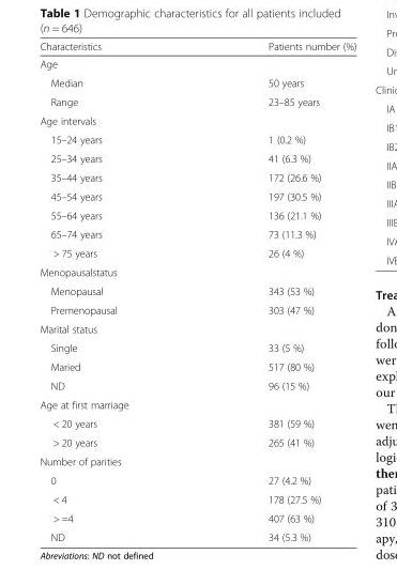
<table><thead><tr><td>Characteristics</td><td>Patients number (%)</td></tr></thead><tbody><tr><td colspan="2">Age</td></tr><tr><td>Median</td><td>50 years</td></tr><tr><td>Range</td><td>23–85 years</td></tr><tr><td colspan="2">Age intervals</td></tr><tr><td>15–24 years</td><td>1 (0.2 %)</td></tr><tr><td>25–34 years</td><td>41 (6.3 %)</td></tr><tr><td>35–44 years</td><td>172 (26.6 %)</td></tr><tr><td>45–54 years</td><td>197 (30.5 %)</td></tr><tr><td>55–64 years</td><td>136 (21.1 %)</td></tr><tr><td>65–74 years</td><td>73 (11.3 %)</td></tr><tr><td>&gt; 75 years</td><td>26 (4 %)</td></tr><tr><td colspan="2">Menopausalstatus</td></tr><tr><td>Menopausal</td><td>343 (53 %)</td></tr><tr><td>Premenopausal</td><td>303 (47 %)</td></tr><tr><td colspan="2">Marital status</td></tr><tr><td>Single</td><td>33 (5 %)</td></tr><tr><td>Maried</td><td>517 (80 %)</td></tr><tr><td>ND</td><td>96 (15 %)</td></tr><tr><td colspan="2">Age at first marriage</td></tr><tr><td>&lt; 20 years</td><td>381 (59 %)</td></tr><tr><td>&gt; 20 years</td><td>265 (41 %)</td></tr><tr><td colspan="2">Number of parities</td></tr><tr><td>0</td><td>27 (4.2 %)</td></tr><tr><td>&lt; 4</td><td>178 (27.5 %)</td></tr><tr><td>&gt; =4</td><td>407 (63 %)</td></tr><tr><td>ND</td><td>34 (5.3 %)</td></tr></tbody></table>